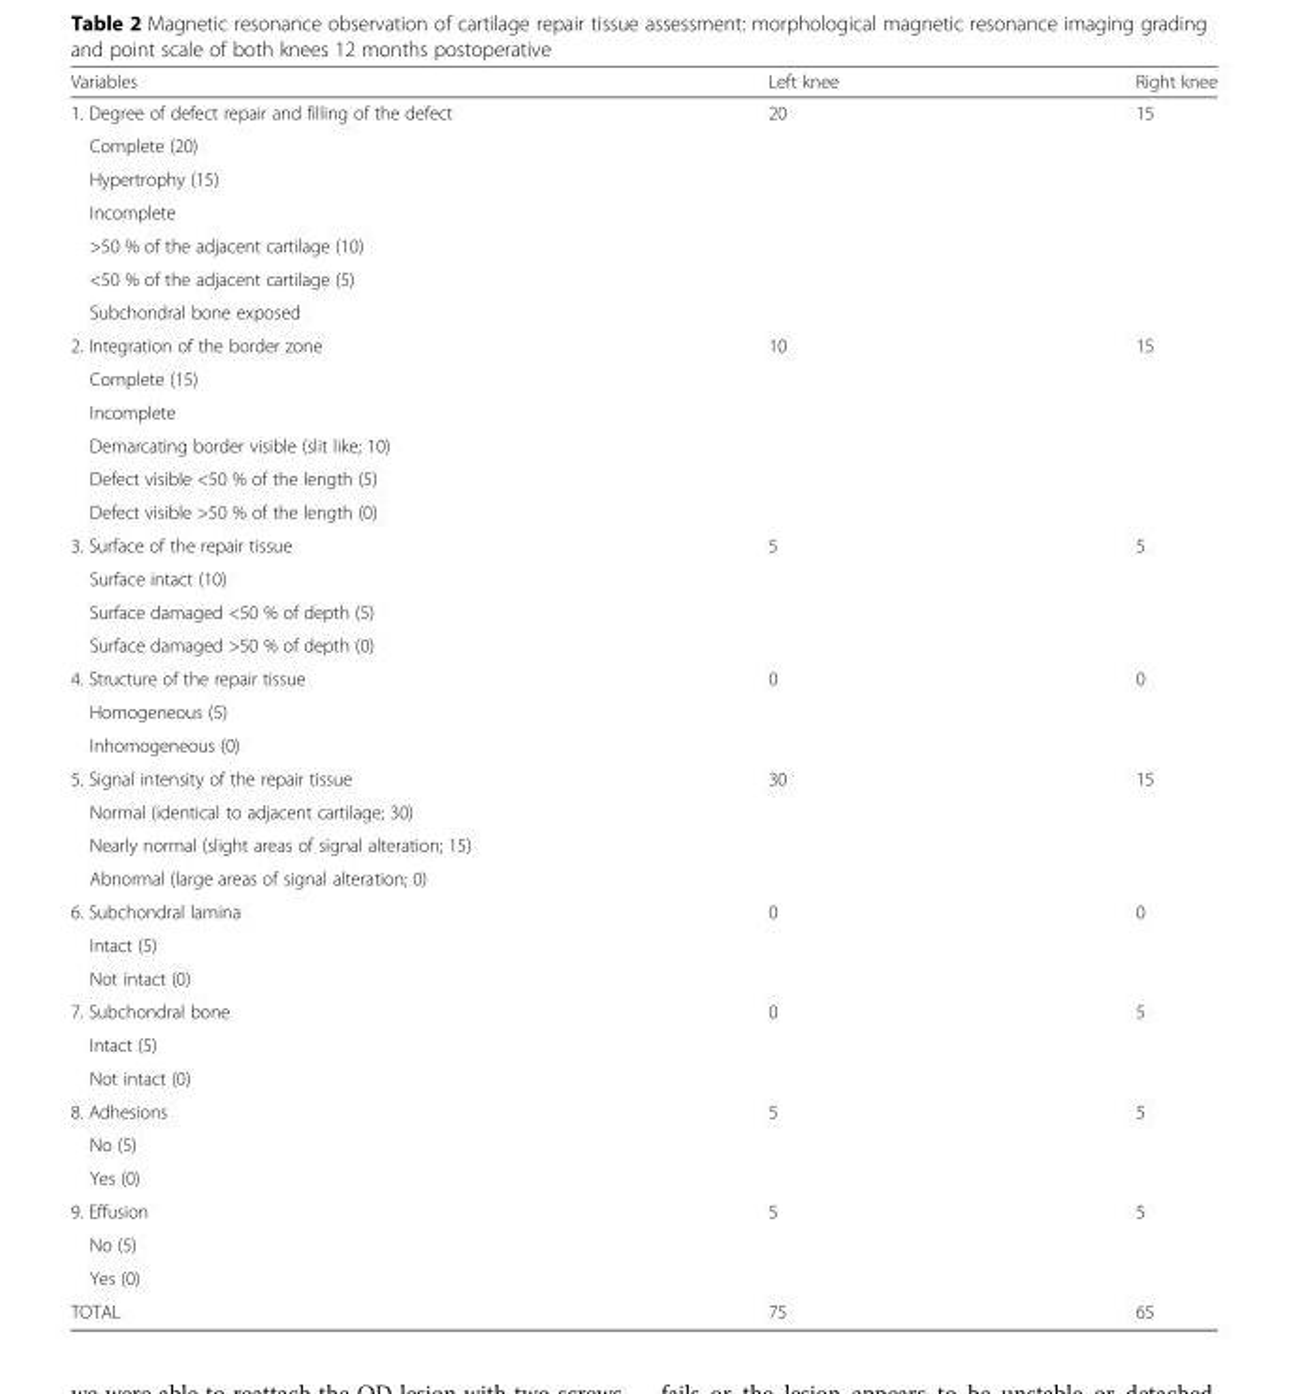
<table><thead><tr><td>Variables</td><td>Left knee</td><td>Right knee</td></tr></thead><tbody><tr><td>1. Degree of defect repair and filling of the defect</td><td>20</td><td>15</td></tr><tr><td colspan="3">Complete (20)</td></tr><tr><td colspan="3">Hypertrophy (15)</td></tr><tr><td colspan="3">Incomplete</td></tr><tr><td colspan="3">&gt;50 % of the adjacent cartilage (10)</td></tr><tr><td colspan="3">&lt;50 % of the adjacent cartilage (5)</td></tr><tr><td colspan="3">Subchondral bone exposed</td></tr><tr><td>2. Integration of the border zone</td><td>10</td><td>15</td></tr><tr><td colspan="3">Complete (15)</td></tr><tr><td colspan="3">Incomplete</td></tr><tr><td colspan="3">Demarcating border visible (slit like; 10)</td></tr><tr><td colspan="3">Defect visible &lt;50 % of the length (5)</td></tr><tr><td colspan="3">Defect visible &gt;50 % of the length (0)</td></tr><tr><td>3. Surface of the repair tissue</td><td>5</td><td>5</td></tr><tr><td colspan="3">Surface intact (10)</td></tr><tr><td colspan="3">Surface damaged &lt;50 % of depth (5)</td></tr><tr><td colspan="3">Surface damaged &gt;50 % of depth (0)</td></tr><tr><td>4. Structure of the repair tissue</td><td>0</td><td>0</td></tr><tr><td colspan="3">Homogeneous (5)</td></tr><tr><td colspan="3">Inhomogeneous (0)</td></tr><tr><td>5. Signal intensity of the repair tissue</td><td>30</td><td>15</td></tr><tr><td colspan="3">Normal (identical to adjacent cartilage; 30)</td></tr><tr><td colspan="3">Nearly normal (slight areas of signal alteration; 15)</td></tr><tr><td colspan="3">Abnormal (large areas of signal alteration; 0)</td></tr><tr><td>6. Subchondral lamina</td><td>0</td><td>0</td></tr><tr><td colspan="3">Intact (5)</td></tr><tr><td colspan="3">Not intact (0)</td></tr><tr><td>7. Subchondral bone</td><td>0</td><td>5</td></tr><tr><td colspan="3">Intact (5)</td></tr><tr><td colspan="3">Not intact (0)</td></tr><tr><td>8. Adhesions</td><td>5</td><td>5</td></tr><tr><td colspan="3">No (5)</td></tr><tr><td colspan="3">Yes (0)</td></tr><tr><td>9. Effusion</td><td>5</td><td>5</td></tr><tr><td colspan="3">No (5)</td></tr><tr><td colspan="3">Yes (0)</td></tr><tr><td>TOTAL</td><td>75</td><td>65</td></tr></tbody></table>